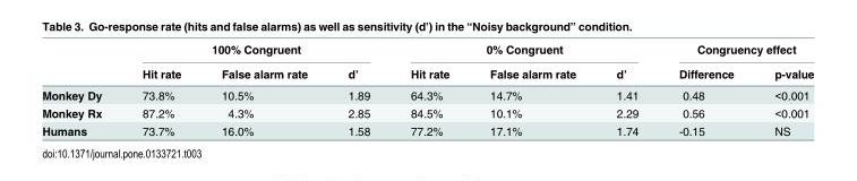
<table><thead><tr><td rowspan="2"></td><td colspan="3">100% Congruent</td><td colspan="3">0% Congruent</td><td colspan="2">Congruency effect</td></tr><tr><td>Hit rate</td><td>False alarm rate</td><td>d’</td><td>Hit rate</td><td>False alarm rate</td><td>d’</td><td>Difference</td><td>p-value</td></tr></thead><tbody><tr><td>Monkey Dy</td><td>73.8%</td><td>10.5%</td><td>1.89</td><td>64.3%</td><td>14.7%</td><td>1.41</td><td>0.48</td><td>&lt;0.001</td></tr><tr><td>Monkey Rx</td><td>87.2%</td><td>4.3%</td><td>2.85</td><td>84.5%</td><td>10.1%</td><td>2.29</td><td>0.56</td><td>&lt;0.001</td></tr><tr><td>Humans</td><td>73.7%</td><td>16.0%</td><td>1.58</td><td>77.2%</td><td>17.1%</td><td>1.74</td><td>-0.15</td><td>NS</td></tr></tbody></table>